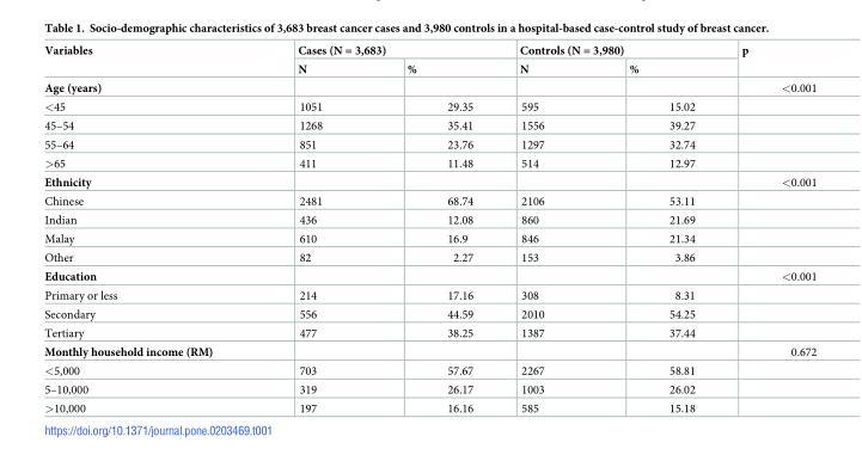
<table><thead><tr><td rowspan="2">Variables</td><td colspan="2">Cases (N = 3,683)</td><td colspan="2">Controls (N = 3,980)</td><td rowspan="2">p</td></tr><tr><td>N</td><td>%</td><td>N</td><td>%</td></tr></thead><tbody><tr><td>Age (years)</td><td></td><td></td><td></td><td></td><td>&lt;0.001</td></tr><tr><td>&lt;45</td><td>1051</td><td>29.35</td><td>595</td><td>15.02</td><td></td></tr><tr><td>45–54</td><td>1268</td><td>35.41</td><td>1556</td><td>39.27</td><td></td></tr><tr><td>55–64</td><td>851</td><td>23.76</td><td>1297</td><td>32.74</td><td></td></tr><tr><td>&gt;65</td><td>411</td><td>11.48</td><td>514</td><td>12.97</td><td></td></tr><tr><td>Ethnicity</td><td></td><td></td><td></td><td></td><td>&lt;0.001</td></tr><tr><td>Chinese</td><td>2481</td><td>68.74</td><td>2106</td><td>53.11</td><td></td></tr><tr><td>Indian</td><td>436</td><td>12.08</td><td>860</td><td>21.69</td><td></td></tr><tr><td>Malay</td><td>610</td><td>16.9</td><td>846</td><td>21.34</td><td></td></tr><tr><td>Other</td><td>82</td><td>2.27</td><td>153</td><td>3.86</td><td></td></tr><tr><td>Education</td><td></td><td></td><td></td><td></td><td>&lt;0.001</td></tr><tr><td>Primary or less</td><td>214</td><td>17.16</td><td>308</td><td>8.31</td><td></td></tr><tr><td>Secondary</td><td>556</td><td>44.59</td><td>2010</td><td>54.25</td><td></td></tr><tr><td>Tertiary</td><td>477</td><td>38.25</td><td>1387</td><td>37.44</td><td></td></tr><tr><td>Monthly household income (RM)</td><td></td><td></td><td></td><td></td><td>0.672</td></tr><tr><td>&lt;5,000</td><td>703</td><td>57.67</td><td>2267</td><td>58.81</td><td></td></tr><tr><td>5–10,000</td><td>319</td><td>26.17</td><td>1003</td><td>26.02</td><td></td></tr><tr><td>&gt;10,000</td><td>197</td><td>16.16</td><td>585</td><td>15.18</td><td></td></tr></tbody></table>